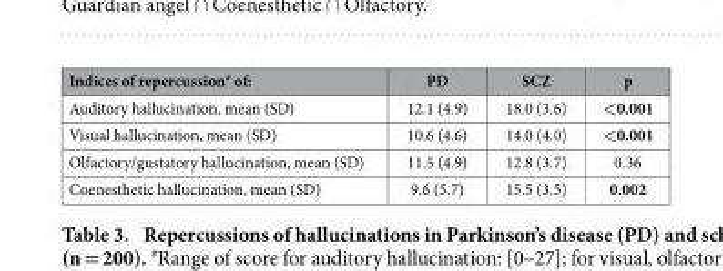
<table><thead><tr><td>Indices of repercussion# of:</td><td>PD</td><td>SCZ</td><td>p</td></tr></thead><tbody><tr><td>Auditory hallucination, mean (SD)</td><td>12.1 (4.9)</td><td>18.0 (3.6)</td><td>&lt;0.001</td></tr><tr><td>Visual hallucination, mean (SD)</td><td>10.6 (4.6)</td><td>14.0 (4.0)</td><td>&lt;0.001</td></tr><tr><td>Olfactory/gustatory hallucination, mean (SD)</td><td>11.5 (4.9)</td><td>12.8 (3.7)</td><td>0.36</td></tr><tr><td>Coenesthetic hallucination, mean (SD)</td><td>9.6 (5.7)</td><td>15.5 (3.5)</td><td>0.002</td></tr></tbody></table>